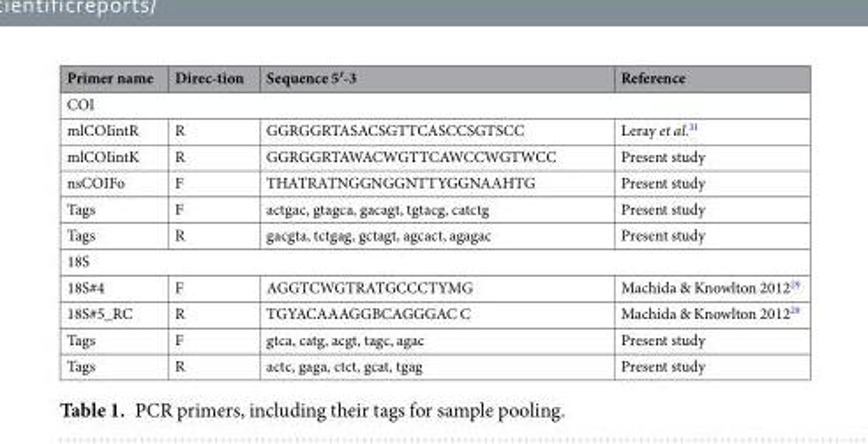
<table><thead><tr><td>Primer name</td><td>Direc-tion</td><td>Sequence 5′-3</td><td>Reference</td></tr></thead><tbody><tr><td colspan="4">COI</td></tr><tr><td>mlCOIintR</td><td>R</td><td>GGRGGRTASACSGTTCASCCSGTSCC</td><td>Leray et al.<sup>31</sup></td></tr><tr><td>mlCOIintK</td><td>R</td><td>GGRGGRTAWACWGTTCAWCCWGTWCC</td><td>Present study</td></tr><tr><td>nsCOIFo</td><td>F</td><td>THATRATNGGNGGNTTYGGNAAHTG</td><td>Present study</td></tr><tr><td>Tags</td><td>F</td><td>actgac, gtagca, gacagt, tgtacg, catctg</td><td>Present study</td></tr><tr><td>Tags</td><td>R</td><td>gacgta, tctgag, gctagt, agcact, agagac</td><td>Present study</td></tr><tr><td colspan="4">18S</td></tr><tr><td>18S#4</td><td>F</td><td>AGGTCWGTRATGCCCTYMG</td><td>Machida &amp; Knowlton 2012<sup>29</sup></td></tr><tr><td>18S#5_RC</td><td>R</td><td>TGYACAAAGGBCAGGGAC C</td><td>Machida &amp; Knowlton 2012<sup>29</sup></td></tr><tr><td>Tags</td><td>F</td><td>gtca, catg, acgt, tagc, agac</td><td>Present study</td></tr><tr><td>Tags</td><td>R</td><td>actc, gaga, ctct, gcat, tgag</td><td>Present study</td></tr></tbody></table>